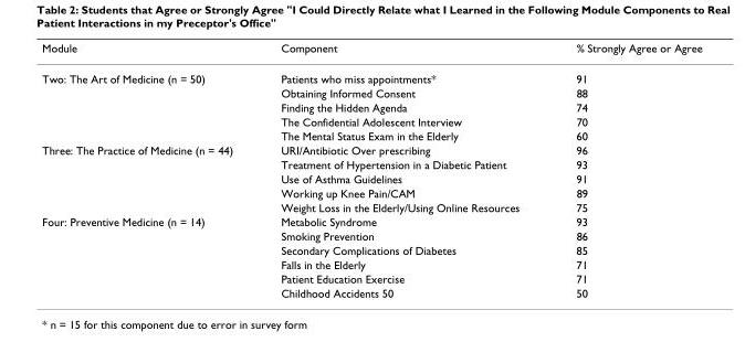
<table><thead><tr><td>Module</td><td>Component</td><td>% Strongly Agree or Agree</td></tr></thead><tbody><tr><td rowspan="5">Two: The Art of Medicine (n = 50)</td><td>Patients who miss appointments*</td><td>91</td></tr><tr><td>Obtaining Informed Consent</td><td>88</td></tr><tr><td>Finding the Hidden Agenda</td><td>74</td></tr><tr><td>The Confidential Adolescent Interview</td><td>70</td></tr><tr><td>The Mental Status Exam in the Elderly</td><td>60</td></tr><tr><td rowspan="5">Three: The Practice of Medicine (n = 44)</td><td>URI/Antibiotic Over prescribing</td><td>96</td></tr><tr><td>Treatment of Hypertension in a Diabetic Patient</td><td>93</td></tr><tr><td>Use of Asthma Guidelines</td><td>91</td></tr><tr><td>Working up Knee Pain/CAM</td><td>89</td></tr><tr><td>Weight Loss in the Elderly/Using Online Resources</td><td>75</td></tr><tr><td rowspan="6">Four: Preventive Medicine (n = 14)</td><td>Metabolic Syndrome</td><td>93</td></tr><tr><td>Smoking Prevention</td><td>86</td></tr><tr><td>Secondary Complications of Diabetes</td><td>85</td></tr><tr><td>Falls in the Elderly</td><td>71</td></tr><tr><td>Patient Education Exercise</td><td>71</td></tr><tr><td>Childhood Accidents 50</td><td>50</td></tr></tbody></table>